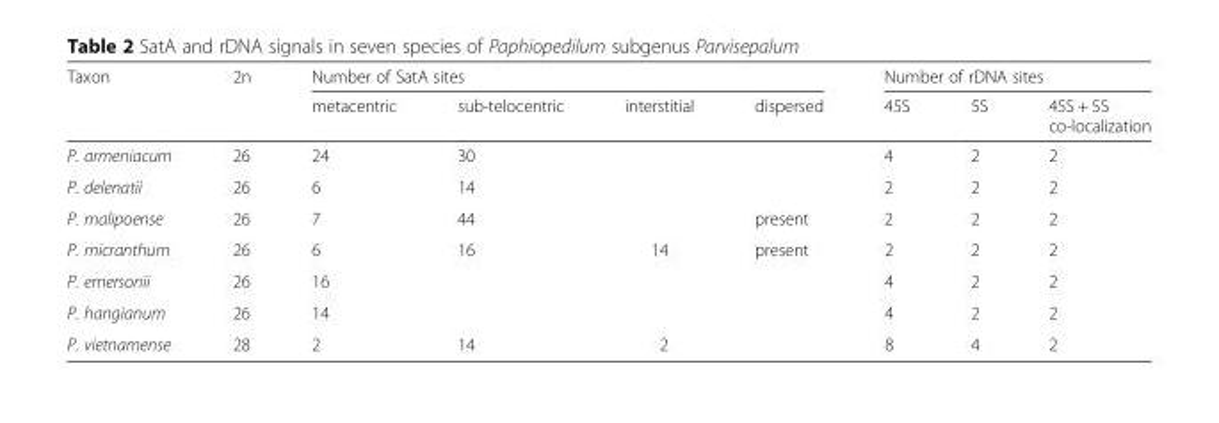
<table><thead><tr><td rowspan="2">Taxon</td><td rowspan="2">2n</td><td colspan="4">Number of SatA sites</td><td colspan="3">Number of rDNA sites</td></tr><tr><td>metacentric</td><td>sub-telocentric</td><td>interstitial</td><td>dispersed</td><td>45S</td><td>5S</td><td>45S + 5S co-localization</td></tr></thead><tbody><tr><td>P. armeniacum</td><td>26</td><td>24</td><td>30</td><td></td><td></td><td>4</td><td>2</td><td>2</td></tr><tr><td>P. delenatii</td><td>26</td><td>6</td><td>14</td><td></td><td></td><td>2</td><td>2</td><td>2</td></tr><tr><td>P. malipoense</td><td>26</td><td>7</td><td>44</td><td></td><td>present</td><td>2</td><td>2</td><td>2</td></tr><tr><td>P. micranthum</td><td>26</td><td>6</td><td>16</td><td>14</td><td>present</td><td>2</td><td>2</td><td>2</td></tr><tr><td>P. emersonii</td><td>26</td><td>16</td><td></td><td></td><td></td><td>4</td><td>2</td><td>2</td></tr><tr><td>P. hangianum</td><td>26</td><td>14</td><td></td><td></td><td></td><td>4</td><td>2</td><td>2</td></tr><tr><td>P. vietnamense</td><td>28</td><td>2</td><td>14</td><td>2</td><td></td><td>8</td><td>4</td><td>2</td></tr></tbody></table>